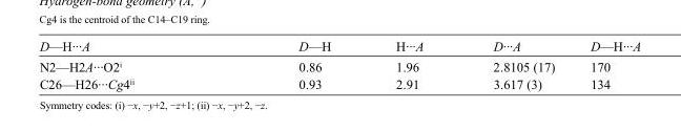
<table><tbody><tr><td>D—H···A</td><td>D—H</td><td>H···A</td><td>D···A</td><td>D—H···A</td></tr><tr><td>N2—H2A···O2<sup>i</sup></td><td>0.86</td><td>1.96</td><td>2.8105 (17)</td><td>170</td></tr><tr><td>C26—H26···Cg4<sup>ii</sup></td><td>0.93</td><td>2.91</td><td>3.617 (3)</td><td>134</td></tr></tbody></table>